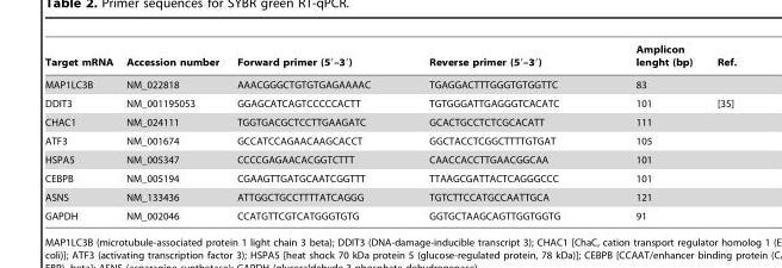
<table><thead><tr><td>Target mRNA</td><td>Accession number</td><td>Forward primer (5′–3′)</td><td>Reverse primer (5′–3′)</td><td>Amplicon lenght (bp)</td><td>Ref.</td></tr></thead><tbody><tr><td>MAP1LC3B</td><td>NM_022818</td><td>AAACGGGCTGTGTGAGAAAAC</td><td>TGAGGACTTTGGGTGTGGTTC</td><td>83</td><td></td></tr><tr><td>DDIT3</td><td>NM_001195053</td><td>GGAGCATCAGTCCCCCACTT</td><td>TGTGGGATTGAGGGTCACATC</td><td>101</td><td>[35]</td></tr><tr><td>CHAC1</td><td>NM_024111</td><td>TGGTGACGCTCCTTGAAGATC</td><td>GCACTGCCTCTCGCACATT</td><td>111</td><td></td></tr><tr><td>ATF3</td><td>NM_001674</td><td>GCCATCCAGAACAAGCACCT</td><td>GGCTACCTCGGCTTTTGTGAT</td><td>105</td><td></td></tr><tr><td>HSPA5</td><td>NM_005347</td><td>CCCCGAGAACACGGTCTTT</td><td>CAACCACCTTGAACGGCAA</td><td>101</td><td></td></tr><tr><td>CEBPB</td><td>NM_005194</td><td>CGAAGTTGATGCAATCGGTTT</td><td>TTAAGCGATTACTCAGGGCCC</td><td>101</td><td></td></tr><tr><td>ASNS</td><td>NM_133436</td><td>ATTGGCTGCCTTTTATCAGGG</td><td>TGTCTTCCATGCCAATTGCA</td><td>121</td><td></td></tr><tr><td>GAPDH</td><td>NM_002046</td><td>CCATGTTCGTCATGGGTGTG</td><td>GGTGCTAAGCAGTTGGTGGTG</td><td>91</td><td></td></tr></tbody></table>